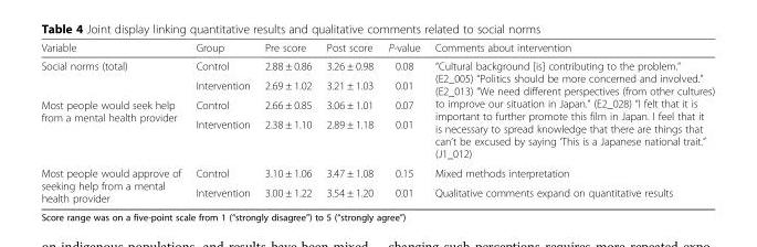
<table><thead><tr><td>Variable</td><td>Group</td><td>Pre score</td><td>Post score</td><td>P-value</td><td>Comments about intervention</td></tr></thead><tbody><tr><td rowspan="2">Social norms (total)</td><td>Control</td><td>2.88 ± 0.86</td><td>3.26 ± 0.98</td><td>0.08</td><td rowspan="4">“Cultural background [is] contributing to the problem.” (E2_005) “Politics should be more concerned and involved.” (E2_013) “We need different perspectives (from other cultures) to improve our situation in Japan.” (E2_028) “I felt that it is important to further promote this film in Japan. I feel that it is necessary to spread knowledge that there are things that can’t be excused by saying ‘This is a Japanese national trait.” (J1_012)</td></tr><tr><td>Intervention</td><td>2.69 ± 1.02</td><td>3.21 ± 1.03</td><td>0.01</td></tr><tr><td rowspan="2">Most people would seek help from a mental health provider</td><td>Control</td><td>2.66 ± 0.85</td><td>3.06 ± 1.01</td><td>0.07</td></tr><tr><td>Intervention</td><td>2.38 ± 1.10</td><td>2.89 ± 1.18</td><td>0.01</td></tr><tr><td rowspan="2">Most people would approve of seeking help from a mental health provider</td><td>Control</td><td>3.10 ± 1.06</td><td>3.47 ± 1.08</td><td>0.15</td><td>Mixed methods interpretation</td></tr><tr><td>Intervention</td><td>3.00 ± 1.22</td><td>3.54 ± 1.20</td><td>0.01</td><td>Qualitative comments expand on quantitative results</td></tr></tbody></table>